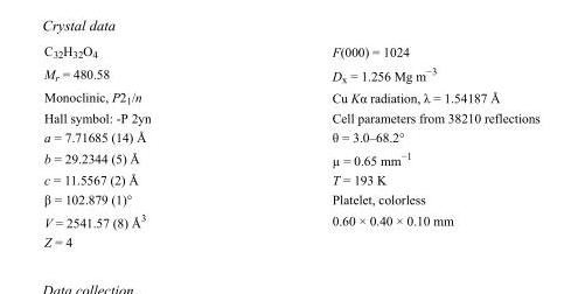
<table><tbody><tr><td>C<sub>32</sub>H<sub>32</sub>O<sub>4</sub></td><td>F(000) = 1024</td></tr><tr><td>M<sub>r</sub> = 480.58</td><td>D<sub>x</sub> = 1.256 Mg m<sup>−3</sup></td></tr><tr><td>Monoclinic, P2<sub>1</sub>/n</td><td>Cu Kα radiation, λ = 1.54187 Å</td></tr><tr><td>Hall symbol: -P 2yn</td><td>Cell parameters from 38210 reflections</td></tr><tr><td>a = 7.71685 (14) Å</td><td>θ = 3.0–68.2°</td></tr><tr><td>b = 29.2344 (5) Å</td><td>µ = 0.65 mm<sup>−1</sup></td></tr><tr><td>c = 11.5567 (2) Å</td><td>T = 193 K</td></tr><tr><td>β = 102.879 (1)°</td><td>Platelet, colorless</td></tr><tr><td>V = 2541.57 (8) Å<sup>3</sup></td><td>0.60 × 0.40 × 0.10 mm</td></tr><tr><td>Z = 4</td><td></td></tr></tbody></table>